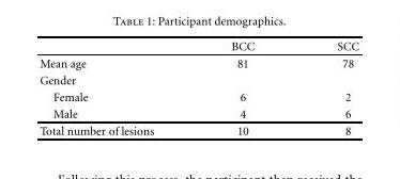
<table><thead><tr><td></td><td>BCC</td><td>SCC</td></tr></thead><tbody><tr><td>Mean age</td><td>81</td><td>78</td></tr><tr><td colspan="3">Gender</td></tr><tr><td>Female</td><td>6</td><td>2</td></tr><tr><td>Male</td><td>4</td><td>6</td></tr><tr><td>Total number of lesions</td><td>10</td><td>8</td></tr></tbody></table>